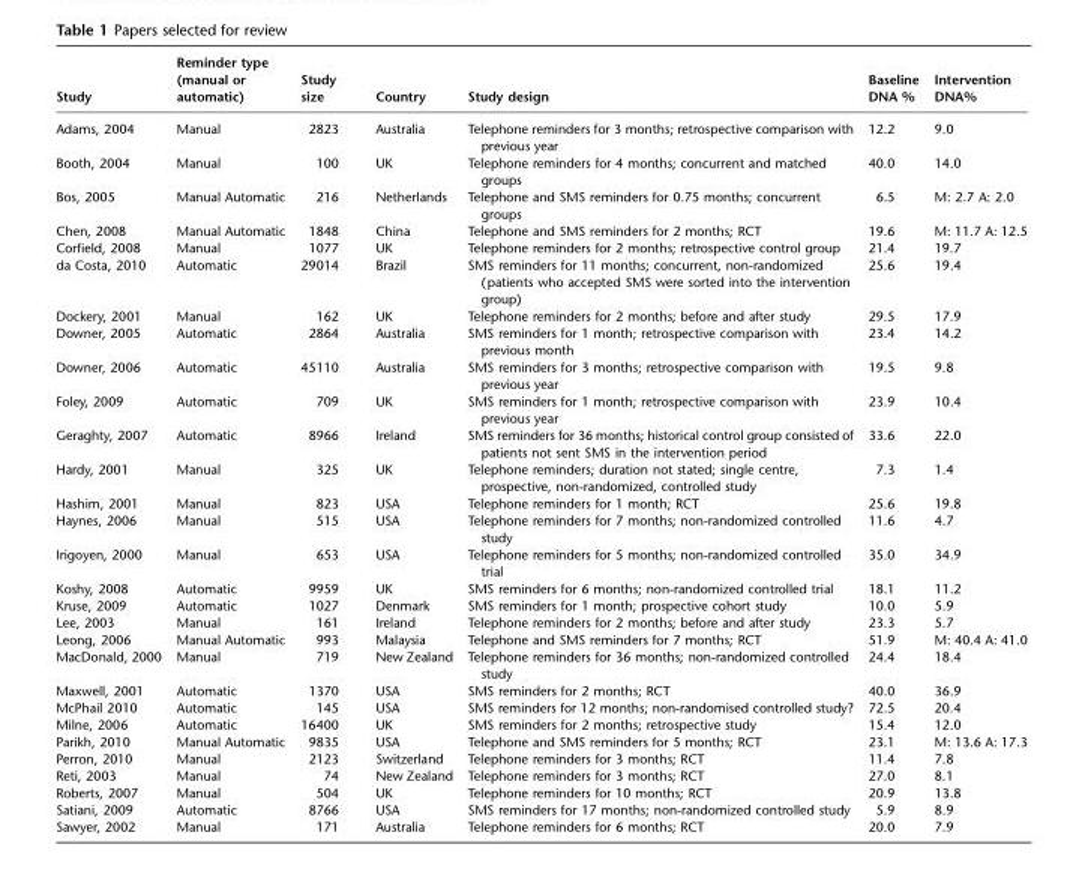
<table><thead><tr><td>Study</td><td>Reminder type (manual or automatic)</td><td>Study size</td><td>Country</td><td>Study design</td><td>Baseline DNA %</td><td>Intervention DNA%</td></tr></thead><tbody><tr><td>Adams, 2004</td><td>Manual</td><td>2823</td><td>Australia</td><td>Telephone reminders for 3 months; retrospective comparison with previous year</td><td>12.2</td><td>9.0</td></tr><tr><td>Booth, 2004</td><td>Manual</td><td>100</td><td>UK</td><td>Telephone reminders for 4 months; concurrent and matched groups</td><td>40.0</td><td>14.0</td></tr><tr><td>Bos, 2005</td><td>Manual Automatic</td><td>216</td><td>Netherlands</td><td>Telephone and SMS reminders for 0.75 months; concurrent groups</td><td>6.5</td><td>M: 2.7 A: 2.0</td></tr><tr><td>Chen, 2008</td><td>Manual Automatic</td><td>1848</td><td>China</td><td>Telephone and SMS reminders for 2 months; RCT</td><td>19.6</td><td>M: 11.7 A: 12.5</td></tr><tr><td>Corfield, 2008</td><td>Manual</td><td>1077</td><td>UK</td><td>Telephone reminders for 2 months; retrospective control group</td><td>21.4</td><td>19.7</td></tr><tr><td>da Costa, 2010</td><td>Automatic</td><td>29014</td><td>Brazil</td><td>SMS reminders for 11 months; concurrent, non-randomized (patients who accepted SMS were sorted into the intervention group)</td><td>25.6</td><td>19.4</td></tr><tr><td>Dockery, 2001</td><td>Manual</td><td>162</td><td>UK</td><td>Telephone reminders for 2 months; before and after study</td><td>29.5</td><td>17.9</td></tr><tr><td>Downer, 2005</td><td>Automatic</td><td>2864</td><td>Australia</td><td>SMS reminders for 1 month; retrospective comparison with previous month</td><td>23.4</td><td>14.2</td></tr><tr><td>Downer, 2006</td><td>Automatic</td><td>45110</td><td>Australia</td><td>SMS reminders for 3 months; retrospective comparison with previous year</td><td>19.5</td><td>9.8</td></tr><tr><td>Foley, 2009</td><td>Automatic</td><td>709</td><td>UK</td><td>SMS reminders for 1 month; retrospective comparison with previous year</td><td>23.9</td><td>10.4</td></tr><tr><td>Geraghty, 2007</td><td>Automatic</td><td>8966</td><td>Ireland</td><td>SMS reminders for 36 months; historical control group consisted of patients not sent SMS in the intervention period</td><td>33.6</td><td>22.0</td></tr><tr><td>Hardy, 2001</td><td>Manual</td><td>325</td><td>UK</td><td>Telephone reminders; duration not stated; single centre, prospective, non-randomized, controlled study</td><td>7.3</td><td>1.4</td></tr><tr><td>Hashim, 2001</td><td>Manual</td><td>823</td><td>USA</td><td>Telephone reminders for 1 month; RCT</td><td>25.6</td><td>19.8</td></tr><tr><td>Haynes, 2006</td><td>Manual</td><td>515</td><td>USA</td><td>Telephone reminders for 7 months; non-randomized controlled study</td><td>11.6</td><td>4.7</td></tr><tr><td>Irigoyen, 2000</td><td>Manual</td><td>653</td><td>USA</td><td>Telephone reminders for 5 months; non-randomized controlled trial</td><td>35.0</td><td>34.9</td></tr><tr><td>Koshy, 2008</td><td>Automatic</td><td>9959</td><td>UK</td><td>SMS reminders for 6 months; non-randomized controlled trial</td><td>18.1</td><td>11.2</td></tr><tr><td>Kruse, 2009</td><td>Automatic</td><td>1027</td><td>Denmark</td><td>SMS reminders for 1 month; prospective cohort study</td><td>10.0</td><td>5.9</td></tr><tr><td>Lee, 2003</td><td>Manual</td><td>161</td><td>Ireland</td><td>Telephone reminders for 2 months; before and after study</td><td>23.3</td><td>5.7</td></tr><tr><td>Leong, 2006</td><td>Manual Automatic</td><td>993</td><td>Malaysia</td><td>Telephone and SMS reminders for 7 months; RCT</td><td>51.9</td><td>M: 40.4 A: 41.0</td></tr><tr><td>MacDonald, 2000</td><td>Manual</td><td>719</td><td>New Zealand</td><td>Telephone reminders for 36 months; non-randomized controlled study</td><td>24.4</td><td>18.4</td></tr><tr><td>Maxwell, 2001</td><td>Automatic</td><td>1370</td><td>USA</td><td>SMS reminders for 2 months; RCT</td><td>40.0</td><td>36.9</td></tr><tr><td>McPhail 2010</td><td>Automatic</td><td>145</td><td>USA</td><td>SMS reminders for 12 months; non-randomised controlled study?</td><td>72.5</td><td>20.4</td></tr><tr><td>Milne, 2006</td><td>Automatic</td><td>16400</td><td>UK</td><td>SMS reminders for 2 months; retrospective study</td><td>15.4</td><td>12.0</td></tr><tr><td>Parikh, 2010</td><td>Manual Automatic</td><td>9835</td><td>USA</td><td>Telephone and SMS reminders for 5 months; RCT</td><td>23.1</td><td>M: 13.6 A: 17.3</td></tr><tr><td>Perron, 2010</td><td>Manual</td><td>2123</td><td>Switzerland</td><td>Telephone reminders for 3 months; RCT</td><td>11.4</td><td>7.8</td></tr><tr><td>Reti, 2003</td><td>Manual</td><td>74</td><td>New Zealand</td><td>Telephone reminders for 3 months; RCT</td><td>27.0</td><td>8.1</td></tr><tr><td>Roberts, 2007</td><td>Manual</td><td>504</td><td>UK</td><td>Telephone reminders for 10 months; RCT</td><td>20.9</td><td>13.8</td></tr><tr><td>Satiani, 2009</td><td>Automatic</td><td>8766</td><td>USA</td><td>SMS reminders for 17 months; non-randomized controlled study</td><td>5.9</td><td>8.9</td></tr><tr><td>Sawyer, 2002</td><td>Manual</td><td>171</td><td>Australia</td><td>Telephone reminders for 6 months; RCT</td><td>20.0</td><td>7.9</td></tr></tbody></table>